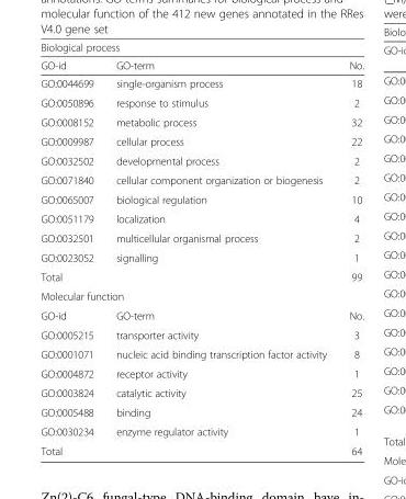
<table><thead><tr><td colspan="3">Biological process</td></tr><tr><td>GO-id</td><td>GO-term</td><td>No.</td></tr></thead><tbody><tr><td>GO:0044699</td><td>single-organism process</td><td>18</td></tr><tr><td>GO:0050896</td><td>response to stimulus</td><td>2</td></tr><tr><td>GO:0008152</td><td>metabolic process</td><td>32</td></tr><tr><td>GO:0009987</td><td>cellular process</td><td>22</td></tr><tr><td>GO:0032502</td><td>developmental process</td><td>2</td></tr><tr><td>GO:0071840</td><td>cellular component organization or biogenesis</td><td>2</td></tr><tr><td>GO:0065007</td><td>biological regulation</td><td>10</td></tr><tr><td>GO:0051179</td><td>localization</td><td>4</td></tr><tr><td>GO:0032501</td><td>multicellular organismal process</td><td>2</td></tr><tr><td>GO:0023052</td><td>signalling</td><td>1</td></tr><tr><td colspan="2">Total</td><td>99</td></tr><tr><td colspan="3">Molecular function</td></tr><tr><td>GO-id</td><td>GO-term</td><td>No.</td></tr><tr><td>GO:0005215</td><td>transporter activity</td><td>3</td></tr><tr><td>GO:0001071</td><td>nucleic acid binding transcription factor activity</td><td>8</td></tr><tr><td>GO:0004872</td><td>receptor activity</td><td>1</td></tr><tr><td>GO:0003824</td><td>catalytic activity</td><td>25</td></tr><tr><td>GO:0005488</td><td>binding</td><td>24</td></tr><tr><td>GO:0030234</td><td>enzyme regulator activity</td><td>1</td></tr><tr><td colspan="2">Total</td><td>64</td></tr></tbody></table>